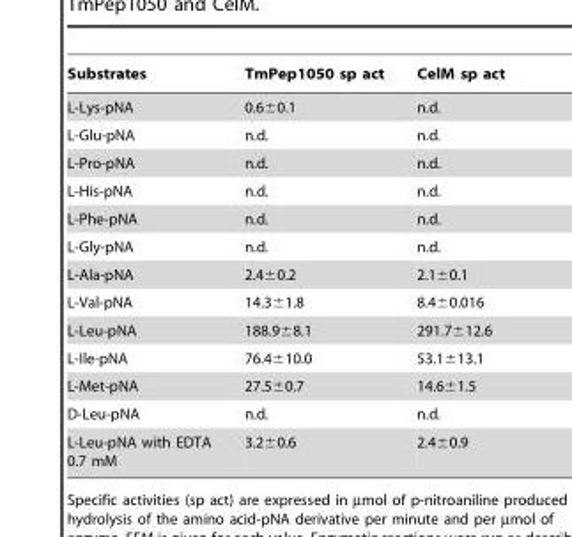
<table><thead><tr><td>Substrates</td><td>TmPep1050 sp act</td><td>CelM sp act</td></tr></thead><tbody><tr><td>L-Lys-pNA</td><td>0.6±0.1</td><td>n.d.</td></tr><tr><td>L-Glu-pNA</td><td>n.d.</td><td>n.d.</td></tr><tr><td>L-Pro-pNA</td><td>n.d.</td><td>n.d.</td></tr><tr><td>L-His-pNA</td><td>n.d.</td><td>n.d.</td></tr><tr><td>L-Phe-pNA</td><td>n.d.</td><td>n.d.</td></tr><tr><td>L-Gly-pNA</td><td>n.d.</td><td>n.d.</td></tr><tr><td>L-Ala-pNA</td><td>2.4±0.2</td><td>2.1±0.1</td></tr><tr><td>L-Val-pNA</td><td>14.3±1.8</td><td>8.4±0.016</td></tr><tr><td>L-Leu-pNA</td><td>188.9±8.1</td><td>291.7±12.6</td></tr><tr><td>L-Ile-pNA</td><td>76.4±10.0</td><td>53.1±13.1</td></tr><tr><td>L-Met-pNA</td><td>27.5±0.7</td><td>14.6±1.5</td></tr><tr><td>D-Leu-pNA</td><td>n.d.</td><td>n.d.</td></tr><tr><td>L-Leu-pNA with EDTA 0.7 mM</td><td>3.2±0.6</td><td>2.4±0.9</td></tr></tbody></table>